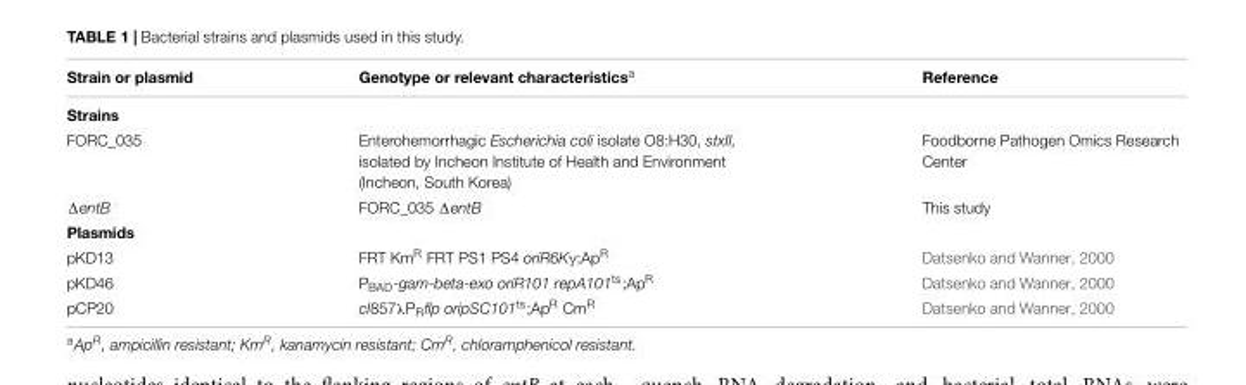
<table><thead><tr><td>Strain or plasmid</td><td>Genotype or relevant characteristics<sup>a</sup></td><td>Reference</td></tr></thead><tbody><tr><td colspan="3">Strains</td></tr><tr><td>FORC_035</td><td>Enterohemorrhagic Escherichia coli isolate O8:H30, stxII, isolated by Incheon Institute of Health and Environment (Incheon, South Korea)</td><td>Foodborne Pathogen Omics Research Center</td></tr><tr><td>ΔentB</td><td>FORC_035 ΔentB</td><td>This study</td></tr><tr><td colspan="3">Plasmids</td></tr><tr><td>pKD13</td><td>FRT Km<sup>R</sup> FRT PS1 PS4 oriR6Kγ;Ap<sup>R</sup></td><td>Datsenko and Wanner, 2000</td></tr><tr><td>pKD46</td><td>P<sub>BAD</sub>-gam-beta-exo oriR101 repA101<sup>ts</sup>;Ap<sup>R</sup></td><td>Datsenko and Wanner, 2000</td></tr><tr><td>pCP20</td><td>cI857λP<sub>R</sub>flp oripSC101<sup>ts</sup>;Ap<sup>R</sup> Cm<sup>R</sup></td><td>Datsenko and Wanner, 2000</td></tr></tbody></table>